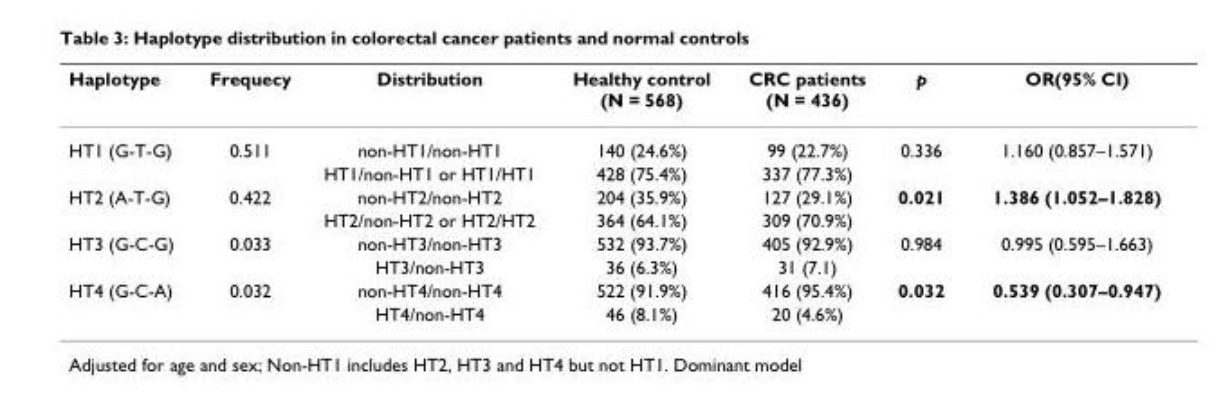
<table><thead><tr><td>Haplotype</td><td>Frequecy</td><td>Distribution</td><td>Healthy control (N = 568)</td><td>CRC patients (N = 436)</td><td>p</td><td>OR(95% CI)</td></tr></thead><tbody><tr><td rowspan="2">HT1 (G-T-G)</td><td>0.511</td><td>non-HT1/non-HT1</td><td>140 (24.6%)</td><td>99 (22.7%)</td><td>0.336</td><td>1.160 (0.857–1.571)</td></tr><tr><td></td><td>HT1/non-HT1 or HT1/HT1</td><td>428 (75.4%)</td><td>337 (77.3%)</td><td></td><td></td></tr><tr><td rowspan="2">HT2 (A-T-G)</td><td>0.422</td><td>non-HT2/non-HT2</td><td>204 (35.9%)</td><td>127 (29.1%)</td><td>0.021</td><td>1.386 (1.052–1.828)</td></tr><tr><td></td><td>HT2/non-HT2 or HT2/HT2</td><td>364 (64.1%)</td><td>309 (70.9%)</td><td></td><td></td></tr><tr><td rowspan="2">HT3 (G-C-G)</td><td>0.033</td><td>non-HT3/non-HT3</td><td>532 (93.7%)</td><td>405 (92.9%)</td><td>0.984</td><td>0.995 (0.595–1.663)</td></tr><tr><td></td><td>HT3/non-HT3</td><td>36 (6.3%)</td><td>31 (7.1)</td><td></td><td></td></tr><tr><td rowspan="2">HT4 (G-C-A)</td><td>0.032</td><td>non-HT4/non-HT4</td><td>522 (91.9%)</td><td>416 (95.4%)</td><td>0.032</td><td>0.539 (0.307–0.947)</td></tr><tr><td></td><td>HT4/non-HT4</td><td>46 (8.1%)</td><td>20 (4.6%)</td><td></td><td></td></tr></tbody></table>